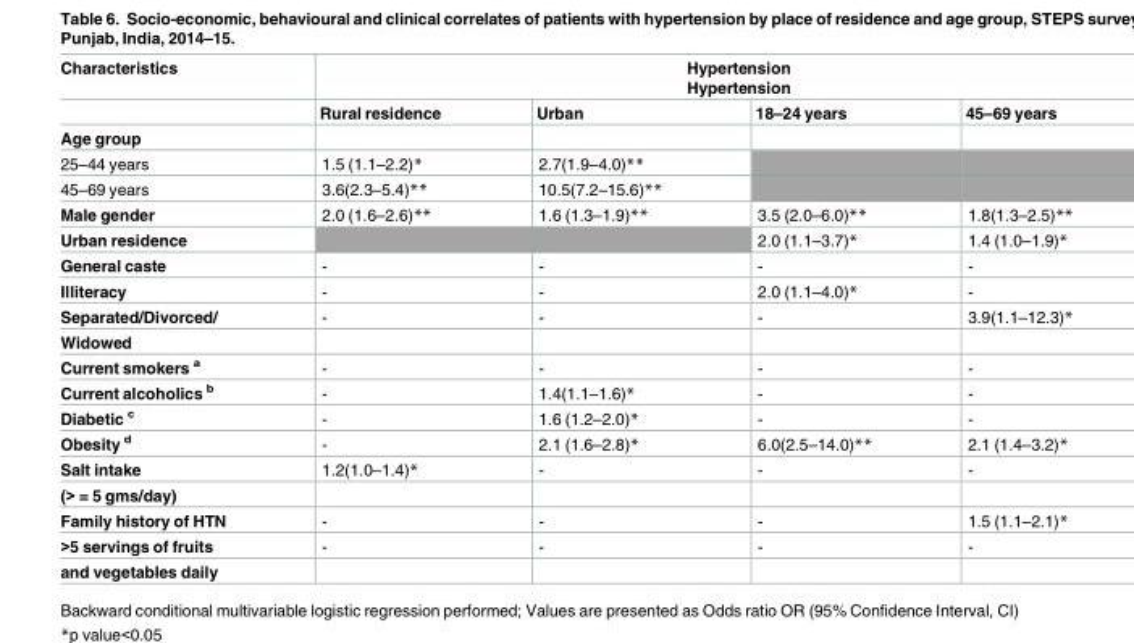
<table><thead><tr><td rowspan="2">Characteristics</td><td colspan="4">Hypertension Hypertension</td></tr><tr><td>Rural residence</td><td>Urban</td><td>18–24 years</td><td>45–69 years</td></tr></thead><tbody><tr><td colspan="5">Age group</td></tr><tr><td>25–44 years</td><td>1.5 (1.1–2.2)*</td><td>2.7(1.9–4.0)**</td><td></td><td></td></tr><tr><td>45–69 years</td><td>3.6(2.3–5.4)**</td><td>10.5(7.2–15.6)**</td><td></td><td></td></tr><tr><td>Male gender</td><td>2.0 (1.6–2.6)**</td><td>1.6 (1.3–1.9)**</td><td>3.5 (2.0–6.0)**</td><td>1.8(1.3–2.5)**</td></tr><tr><td>Urban residence</td><td></td><td></td><td>2.0 (1.1–3.7)*</td><td>1.4 (1.0–1.9)*</td></tr><tr><td>General caste</td><td>-</td><td>-</td><td>-</td><td>-</td></tr><tr><td>Illiteracy</td><td>-</td><td>-</td><td>2.0 (1.1–4.0)*</td><td>-</td></tr><tr><td>Separated/Divorced/</td><td>-</td><td>-</td><td>-</td><td>3.9(1.1–12.3)*</td></tr><tr><td colspan="5">Widowed</td></tr><tr><td>Current smokers a</td><td>-</td><td>-</td><td>-</td><td>-</td></tr><tr><td>Current alcoholics b</td><td>-</td><td>1.4(1.1–1.6)*</td><td>-</td><td>-</td></tr><tr><td>Diabetic c</td><td>-</td><td>1.6 (1.2–2.0)*</td><td>-</td><td>-</td></tr><tr><td>Obesity d</td><td>-</td><td>2.1 (1.6–2.8)*</td><td>6.0(2.5–14.0)**</td><td>2.1 (1.4–3.2)*</td></tr><tr><td>Salt intake</td><td>1.2(1.0–1.4)*</td><td>-</td><td>-</td><td>-</td></tr><tr><td colspan="5">(&gt; = 5 gms/day)</td></tr><tr><td>Family history of HTN</td><td>-</td><td>-</td><td>-</td><td>1.5 (1.1–2.1)*</td></tr><tr><td>&gt;5 servings of fruits</td><td>-</td><td>-</td><td>-</td><td>-</td></tr><tr><td>and vegetables daily</td><td></td><td></td><td></td><td></td></tr></tbody></table>